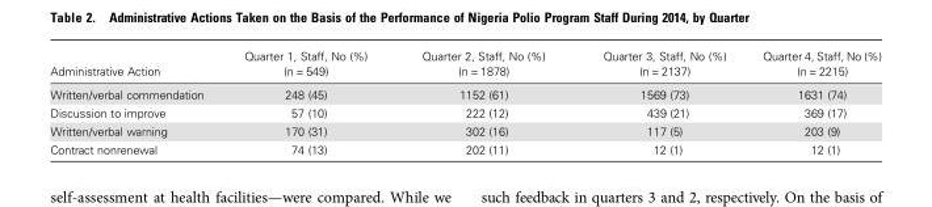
<table><thead><tr><td>Administrative Action</td><td>Quarter 1, Staff, No (%) (n = 549)</td><td>Quarter 2, Staff, No (%) (n = 1878)</td><td>Quarter 3, Staff, No (%) (n = 2137)</td><td>Quarter 4, Staff, No (%) (n = 2215)</td></tr></thead><tbody><tr><td>Written/verbal commendation</td><td>248 (45)</td><td>1152 (61)</td><td>1569 (73)</td><td>1631 (74)</td></tr><tr><td>Discussion to improve</td><td>57 (10)</td><td>222 (12)</td><td>439 (21)</td><td>369 (17)</td></tr><tr><td>Written/verbal warning</td><td>170 (31)</td><td>302 (16)</td><td>117 (5)</td><td>203 (9)</td></tr><tr><td>Contract nonrenewal</td><td>74 (13)</td><td>202 (11)</td><td>12 (1)</td><td>12 (1)</td></tr></tbody></table>